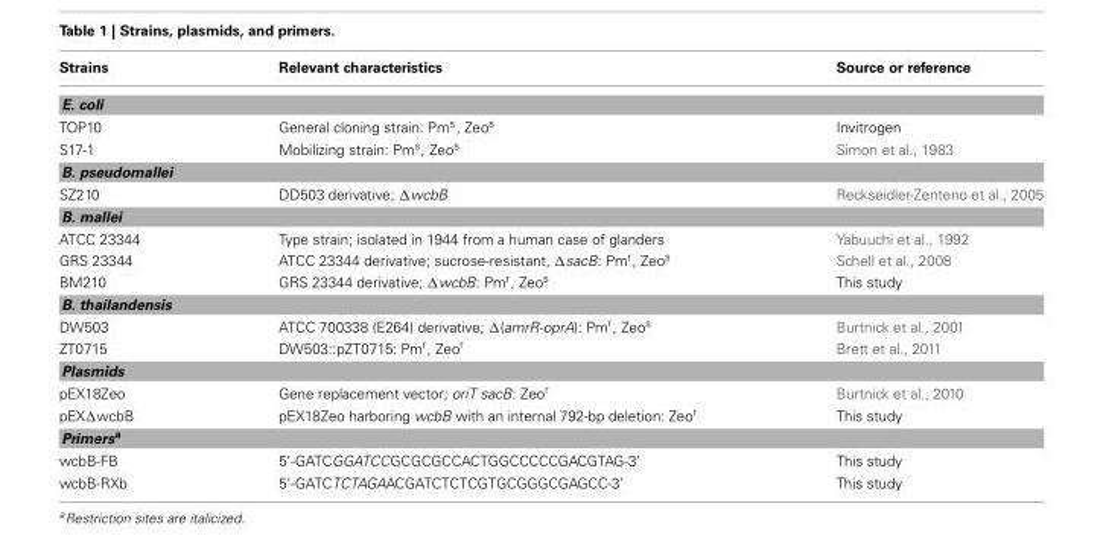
<table><thead><tr><td>Strains</td><td>Relevant characteristics</td><td>Source or reference</td></tr></thead><tbody><tr><td colspan="3">E. coli</td></tr><tr><td>TOP10</td><td>General cloning strain: Pm<sup>s</sup>, Zeo<sup>s</sup></td><td>Invitrogen</td></tr><tr><td>S17-1</td><td>Mobilizing strain: Pm<sup>s</sup>, Zeo<sup>s</sup></td><td>Simon et al., 1983</td></tr><tr><td colspan="3">B. pseudomallei</td></tr><tr><td>SZ210</td><td>DD503 derivative; ΔwcbB</td><td>Reckseidler-Zenteno et al., 2005</td></tr><tr><td colspan="3">B. mallei</td></tr><tr><td>ATCC 23344</td><td>Type strain; isolated in 1944 from a human case of glanders</td><td>Yabuuchi et al., 1992</td></tr><tr><td>GRS 23344</td><td>ATCC 23344 derivative; sucrose-resistant, ΔsacB: Pm<sup>r</sup>, Zeo<sup>s</sup></td><td>Schell et al., 2008</td></tr><tr><td>BM210</td><td>GRS 23344 derivative; ΔwcbB: Pm<sup>r</sup>, Zeo<sup>s</sup></td><td>This study</td></tr><tr><td colspan="3">B. thailandensis</td></tr><tr><td>DW503</td><td>ATCC 700338 (E264) derivative; Δ(amrR-oprA): Pm<sup>r</sup>, Zeo<sup>s</sup></td><td>Burtnick et al., 2001</td></tr><tr><td>ZT0715</td><td>DW503::pZT0715: Pm<sup>r</sup>, Zeo<sup>r</sup></td><td>Brett et al., 2011</td></tr><tr><td colspan="3">Plasmids</td></tr><tr><td>pEX18Zeo</td><td>Gene replacement vector; oriT sacB: Zeo<sup>r</sup></td><td>Burtnick et al., 2010</td></tr><tr><td>pEXΔwcbB</td><td>pEX18Zeo harboring wcbB with an internal 792-bp deletion: Zeo<sup>r</sup></td><td>This study</td></tr><tr><td colspan="3">Primers<sup>a</sup></td></tr><tr><td>wcbB-FB</td><td>5’-GATCGGATCCGCGCGCCACTGGCCCCCGACGTAG-3’</td><td>This study</td></tr><tr><td>wcbB-RXb</td><td>5’-GATCTCTAGAACGATCTCTCGTGCGGGCGAGCC-3’</td><td>This study</td></tr></tbody></table>